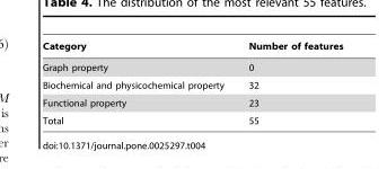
<table><thead><tr><td>Category</td><td>Number of features</td></tr></thead><tbody><tr><td>Graph property</td><td>0</td></tr><tr><td>Biochemical and physicochemical property</td><td>32</td></tr><tr><td>Functional property</td><td>23</td></tr><tr><td>Total</td><td>55</td></tr></tbody></table>